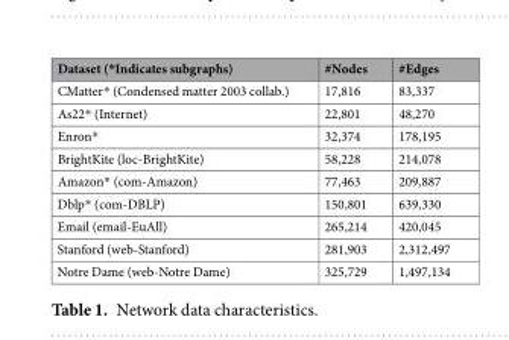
<table><thead><tr><td>Dataset (*Indicates subgraphs)</td><td>#Nodes</td><td>#Edges</td></tr></thead><tbody><tr><td>CMatter* (Condensed matter 2003 collab.)</td><td>17,816</td><td>83,337</td></tr><tr><td>As22* (Internet)</td><td>22,801</td><td>48,270</td></tr><tr><td>Enron*</td><td>32,374</td><td>178,195</td></tr><tr><td>BrightKite (loc-BrightKite)</td><td>58,228</td><td>214,078</td></tr><tr><td>Amazon* (com-Amazon)</td><td>77,463</td><td>209,887</td></tr><tr><td>Dblp* (com-DBLP)</td><td>150,801</td><td>639,330</td></tr><tr><td>Email (email-EuAll)</td><td>265,214</td><td>420,045</td></tr><tr><td>Stanford (web-Stanford)</td><td>281,903</td><td>2,312,497</td></tr><tr><td>Notre Dame (web-Notre Dame)</td><td>325,729</td><td>1,497,134</td></tr></tbody></table>